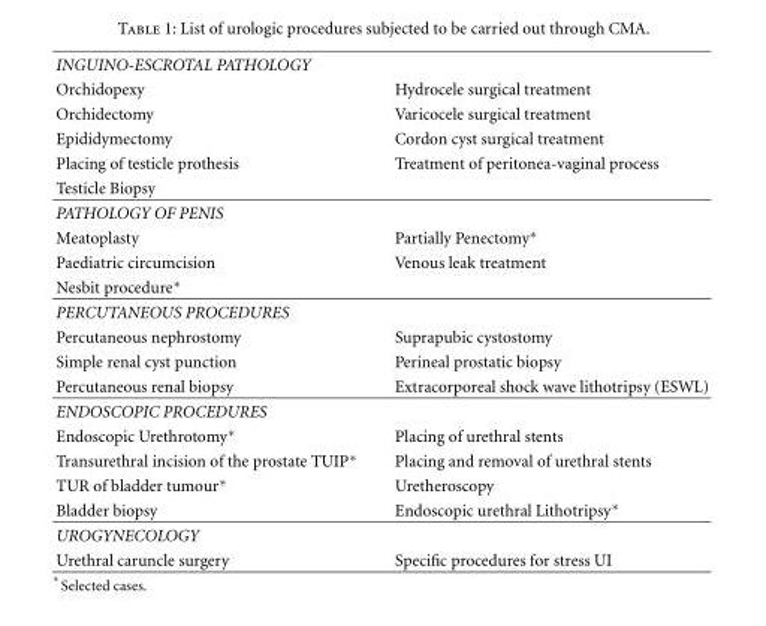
<table><tbody><tr><td colspan="2">INGUINO-ESCROTAL PATHOLOGY</td></tr><tr><td>Orchidopexy</td><td>Hydrocele surgical treatment</td></tr><tr><td>Orchidectomy</td><td>Varicocele surgical treatment</td></tr><tr><td>Epididymectomy</td><td>Cordon cyst surgical treatment</td></tr><tr><td>Placing of testicle prothesis</td><td>Treatment of peritonea-vaginal process</td></tr><tr><td colspan="2">Testicle Biopsy</td></tr><tr><td colspan="2">PATHOLOGY OF PENIS</td></tr><tr><td>Meatoplasty</td><td>Partially Penectomy∗</td></tr><tr><td>Paediatric circumcision</td><td>Venous leak treatment</td></tr><tr><td colspan="2">Nesbit procedure∗</td></tr><tr><td colspan="2">PERCUTANEOUS PROCEDURES</td></tr><tr><td>Percutaneous nephrostomy</td><td>Suprapubic cystostomy</td></tr><tr><td>Simple renal cyst punction</td><td>Perineal prostatic biopsy</td></tr><tr><td>Percutaneous renal biopsy</td><td>Extracorporeal shock wave lithotripsy (ESWL)</td></tr><tr><td colspan="2">ENDOSCOPIC PROCEDURES</td></tr><tr><td>Endoscopic Urethrotomy∗</td><td>Placing of urethral stents</td></tr><tr><td>Transurethral incision of the prostate TUIP∗</td><td>Placing and removal of urethral stents</td></tr><tr><td>TUR of bladder tumour∗</td><td>Uretheroscopy</td></tr><tr><td>Bladder biopsy</td><td>Endoscopic urethral Lithotripsy∗</td></tr><tr><td colspan="2">UROGYNECOLOGY</td></tr><tr><td>Urethral caruncle surgery</td><td>Specific procedures for stress UI</td></tr></tbody></table>